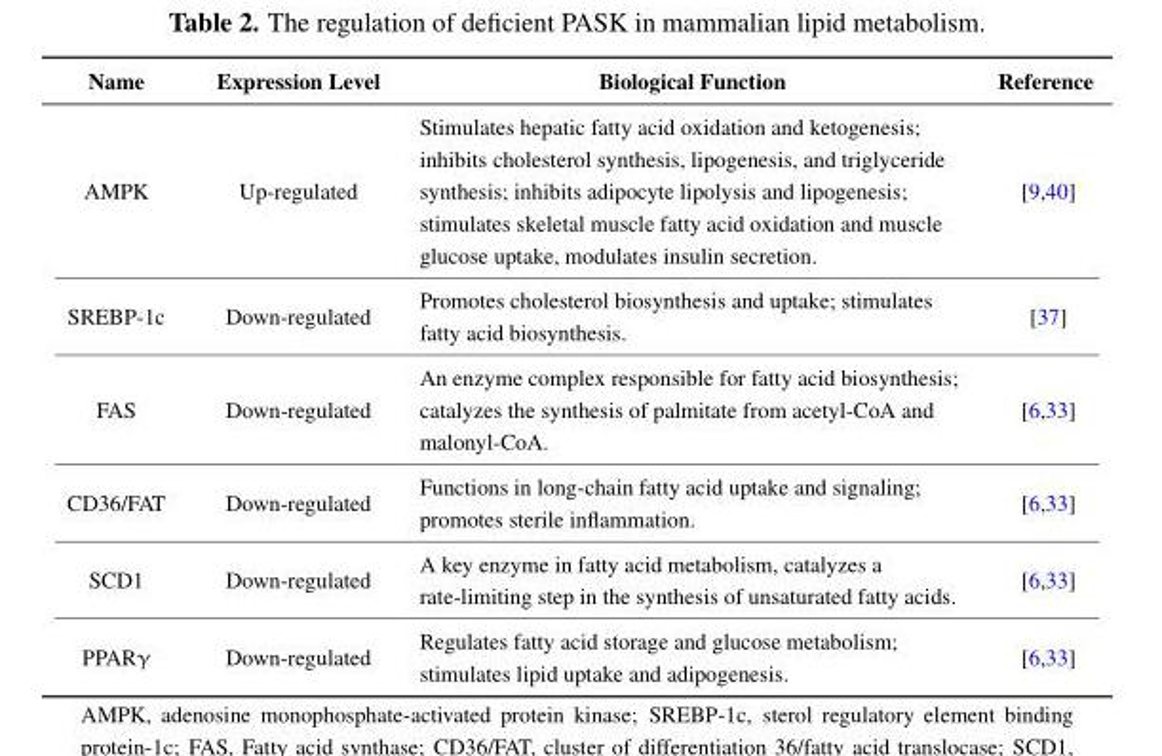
<table><thead><tr><td>Name</td><td>Expression Level</td><td>Biological Function</td><td>Reference</td></tr></thead><tbody><tr><td>AMPK</td><td>Up-regulated</td><td>Stimulates hepatic fatty acid oxidation and ketogenesis; inhibits cholesterol synthesis, lipogenesis, and triglyceride synthesis; inhibits adipocyte lipolysis and lipogenesis; stimulates skeletal muscle fatty acid oxidation and muscle glucose uptake, modulates insulin secretion.</td><td>[9,40]</td></tr><tr><td>SREBP-1c</td><td>Down-regulated</td><td>Promotes cholesterol biosynthesis and uptake; stimulates fatty acid biosynthesis.</td><td>[37]</td></tr><tr><td>FAS</td><td>Down-regulated</td><td>An enzyme complex responsible for fatty acid biosynthesis; catalyzes the synthesis of palmitate from acetyl-CoA and malonyl-CoA.</td><td>[6,33]</td></tr><tr><td>CD36/FAT</td><td>Down-regulated</td><td>Functions in long-chain fatty acid uptake and signaling; promotes sterile inflammation.</td><td>[6,33]</td></tr><tr><td>SCD1</td><td>Down-regulated</td><td>A key enzyme in fatty acid metabolism, catalyzes a rate-limiting step in the synthesis of unsaturated fatty acids.</td><td>[6,33]</td></tr><tr><td>PPARγ</td><td>Down-regulated</td><td>Regulates fatty acid storage and glucose metabolism; stimulates lipid uptake and adipogenesis.</td><td>[6,33]</td></tr></tbody></table>